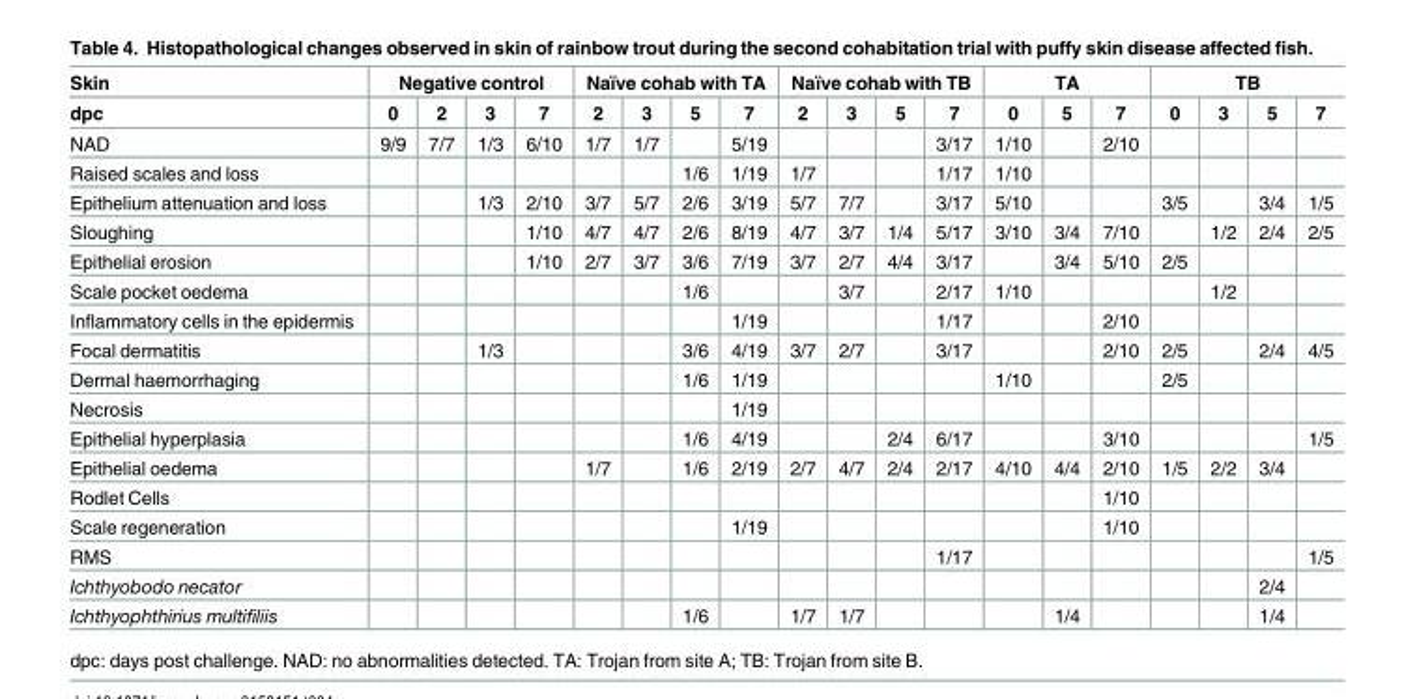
<table><thead><tr><td rowspan="2">Skin dpc</td><td colspan="4">Negative control</td><td colspan="4">Naïve cohab with TA</td><td colspan="4">Naïve cohab with TB</td><td colspan="3">TA</td><td colspan="4">TB</td></tr><tr><td>0</td><td>2</td><td>3</td><td>7</td><td>2</td><td>3</td><td>5</td><td>7</td><td>2</td><td>3</td><td>5</td><td>7</td><td>0</td><td>5</td><td>7</td><td>0</td><td>3</td><td>5</td><td>7</td></tr></thead><tbody><tr><td>NAD</td><td>9/9</td><td>7/7</td><td>1/3</td><td>6/10</td><td>1/7</td><td>1/7</td><td></td><td>5/19</td><td></td><td></td><td></td><td>3/17</td><td>1/10</td><td></td><td>2/10</td><td></td><td></td><td></td><td></td></tr><tr><td>Raised scales and loss</td><td></td><td></td><td></td><td></td><td></td><td></td><td>1/6</td><td>1/19</td><td>1/7</td><td></td><td></td><td>1/17</td><td>1/10</td><td></td><td></td><td></td><td></td><td></td><td></td></tr><tr><td>Epithelium attenuation and loss</td><td></td><td></td><td>1/3</td><td>2/10</td><td>3/7</td><td>5/7</td><td>2/6</td><td>3/19</td><td>5/7</td><td>7/7</td><td></td><td>3/17</td><td>5/10</td><td></td><td></td><td>3/5</td><td></td><td>3/4</td><td>1/5</td></tr><tr><td>Sloughing</td><td></td><td></td><td></td><td>1/10</td><td>4/7</td><td>4/7</td><td>2/6</td><td>8/19</td><td>4/7</td><td>3/7</td><td>1/4</td><td>5/17</td><td>3/10</td><td>3/4</td><td>7/10</td><td></td><td>1/2</td><td>2/4</td><td>2/5</td></tr><tr><td>Epithelial erosion</td><td></td><td></td><td></td><td>1/10</td><td>2/7</td><td>3/7</td><td>3/6</td><td>7/19</td><td>3/7</td><td>2/7</td><td>4/4</td><td>3/17</td><td></td><td>3/4</td><td>5/10</td><td>2/5</td><td></td><td></td><td></td></tr><tr><td>Scale pocket oedema</td><td></td><td></td><td></td><td></td><td></td><td></td><td>1/6</td><td></td><td></td><td>3/7</td><td></td><td>2/17</td><td>1/10</td><td></td><td></td><td></td><td>1/2</td><td></td><td></td></tr><tr><td>Inflammatory cells in the epidermis</td><td></td><td></td><td></td><td></td><td></td><td></td><td></td><td>1/19</td><td></td><td></td><td></td><td>1/17</td><td></td><td></td><td>2/10</td><td></td><td></td><td></td><td></td></tr><tr><td>Focal dermatitis</td><td></td><td></td><td>1/3</td><td></td><td></td><td></td><td>3/6</td><td>4/19</td><td>3/7</td><td>2/7</td><td></td><td>3/17</td><td></td><td></td><td>2/10</td><td>2/5</td><td></td><td>2/4</td><td>4/5</td></tr><tr><td>Dermal haemorrhaging</td><td></td><td></td><td></td><td></td><td></td><td></td><td>1/6</td><td>1/19</td><td></td><td></td><td></td><td></td><td>1/10</td><td></td><td></td><td>2/5</td><td></td><td></td><td></td></tr><tr><td>Necrosis</td><td></td><td></td><td></td><td></td><td></td><td></td><td></td><td>1/19</td><td></td><td></td><td></td><td></td><td></td><td></td><td></td><td></td><td></td><td></td><td></td></tr><tr><td>Epithelial hyperplasia</td><td></td><td></td><td></td><td></td><td></td><td></td><td>1/6</td><td>4/19</td><td></td><td></td><td>2/4</td><td>6/17</td><td></td><td></td><td>3/10</td><td></td><td></td><td></td><td>1/5</td></tr><tr><td>Epithelial oedema</td><td></td><td></td><td></td><td></td><td>1/7</td><td></td><td>1/6</td><td>2/19</td><td>2/7</td><td>4/7</td><td>2/4</td><td>2/17</td><td>4/10</td><td>4/4</td><td>2/10</td><td>1/5</td><td>2/2</td><td>3/4</td><td></td></tr><tr><td>Rodlet Cells</td><td></td><td></td><td></td><td></td><td></td><td></td><td></td><td></td><td></td><td></td><td></td><td></td><td></td><td></td><td>1/10</td><td></td><td></td><td></td><td></td></tr><tr><td>Scale regeneration</td><td></td><td></td><td></td><td></td><td></td><td></td><td></td><td>1/19</td><td></td><td></td><td></td><td></td><td></td><td></td><td>1/10</td><td></td><td></td><td></td><td></td></tr><tr><td>RMS</td><td></td><td></td><td></td><td></td><td></td><td></td><td></td><td></td><td></td><td></td><td></td><td>1/17</td><td></td><td></td><td></td><td></td><td></td><td></td><td>1/5</td></tr><tr><td>Ichthyobodo necator</td><td></td><td></td><td></td><td></td><td></td><td></td><td></td><td></td><td></td><td></td><td></td><td></td><td></td><td></td><td></td><td></td><td></td><td>2/4</td><td></td></tr><tr><td>Ichthyophthirius multifiliis</td><td></td><td></td><td></td><td></td><td></td><td></td><td>1/6</td><td></td><td>1/7</td><td>1/7</td><td></td><td></td><td></td><td>1/4</td><td></td><td></td><td></td><td>1/4</td><td></td></tr></tbody></table>